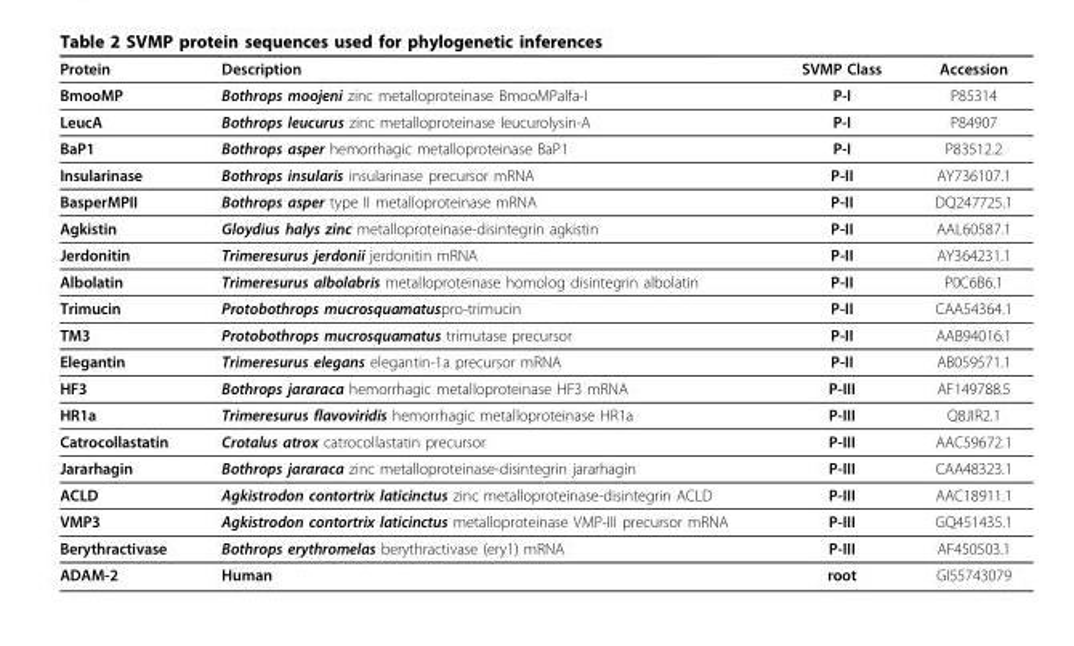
<table><thead><tr><td>Protein</td><td>Description</td><td>SVMP Class</td><td>Accession</td></tr></thead><tbody><tr><td>BmooMP</td><td>Bothrops moojeni zinc metalloproteinase BmooMPalfa-I</td><td>P-I</td><td>P85314</td></tr><tr><td>LeucA</td><td>Bothrops leucurus zinc metalloproteinase leucurolysin-A</td><td>P-I</td><td>P84907</td></tr><tr><td>BaP1</td><td>Bothrops asper hemorrhagic metalloproteinase BaP1</td><td>P-I</td><td>P83512.2</td></tr><tr><td>Insularinase</td><td>Bothrops insularis insularinase precursor mRNA</td><td>P-II</td><td>AY736107.1</td></tr><tr><td>BasperMPII</td><td>Bothrops asper type II metalloproteinase mRNA</td><td>P-II</td><td>DQ247725.1</td></tr><tr><td>Agkistin</td><td>Gloydius halys zinc metalloproteinase-disintegrin agkistin</td><td>P-II</td><td>AAL60587.1</td></tr><tr><td>Jerdonitin</td><td>Trimeresurus jerdonii jerdonitin mRNA</td><td>P-II</td><td>AY364231.1</td></tr><tr><td>Albolatin</td><td>Trimeresurus albolabris metalloproteinase homolog disintegrin albolatin</td><td>P-II</td><td>P0C6B6.1</td></tr><tr><td>Trimucin</td><td>Protobothrops mucrosquamatuspro-trimucin</td><td>P-II</td><td>CAA54364.1</td></tr><tr><td>TM3</td><td>Protobothrops mucrosquamatus trimutase precursor</td><td>P-II</td><td>AAB94016.1</td></tr><tr><td>Elegantin</td><td>Trimeresurus elegans elegantin-1a precursor mRNA</td><td>P-II</td><td>AB059571.1</td></tr><tr><td>HF3</td><td>Bothrops jararaca hemorrhagic metalloproteinase HF3 mRNA</td><td>P-III</td><td>AF149788.5</td></tr><tr><td>HR1a</td><td>Trimeresurus flavoviridis hemorrhagic metalloproteinase HR1a</td><td>P-III</td><td>Q8JIR2.1</td></tr><tr><td>Catrocollastatin</td><td>Crotalus atrox catrocollastatin precursor</td><td>P-III</td><td>AAC59672.1</td></tr><tr><td>Jararhagin</td><td>Bothrops jararaca zinc metalloproteinase-disintegrin jararhagin</td><td>P-III</td><td>CAA48323.1</td></tr><tr><td>ACLD</td><td>Agkistrodon contortrix laticinctus zinc metalloproteinase-disintegrin ACLD</td><td>P-III</td><td>AAC18911.1</td></tr><tr><td>VMP3</td><td>Agkistrodon contortrix laticinctus metalloproteinase VMP-III precursor mRNA</td><td>P-III</td><td>GQ451435.1</td></tr><tr><td>Berythractivase</td><td>Bothrops erythromelas berythractivase (ery1) mRNA</td><td>P-III</td><td>AF450503.1</td></tr><tr><td>ADAM-2</td><td>Human</td><td>root</td><td>GI55743079</td></tr></tbody></table>